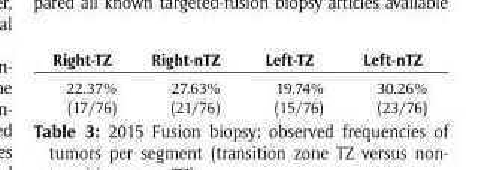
<table><thead><tr><td>Right-TZ</td><td>Right-nTZ</td><td>Left-TZ</td><td>Left-nTZ</td></tr></thead><tbody><tr><td>22.37% (17/76)</td><td>27.63% (21/76)</td><td>19.74% (15/76)</td><td>30.26% (23/76)</td></tr></tbody></table>